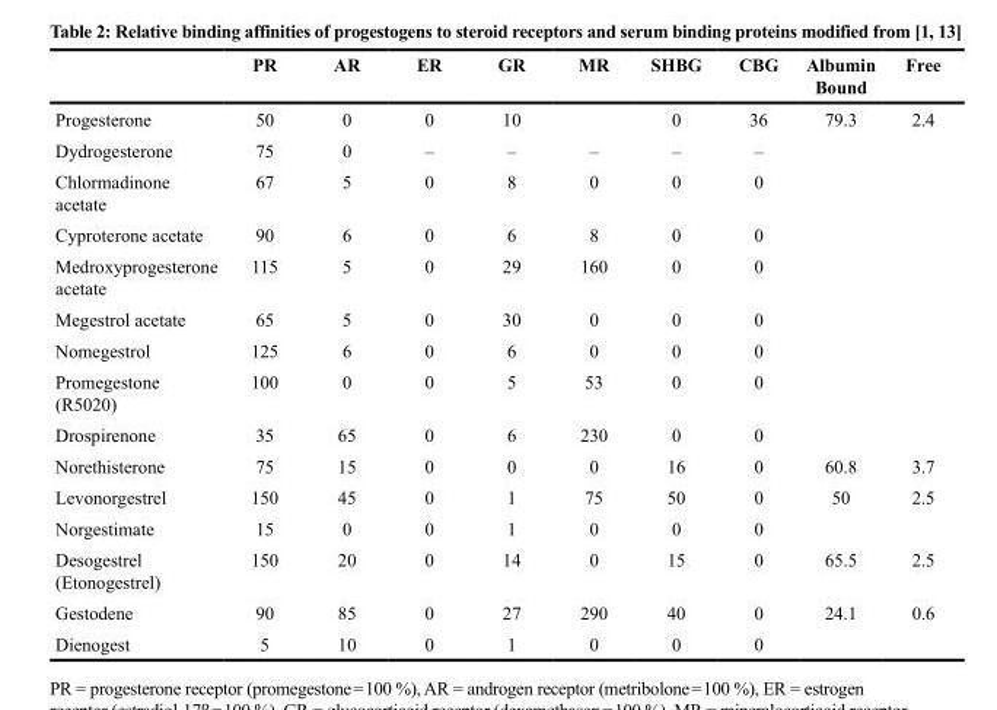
<table><thead><tr><td></td><td>PR</td><td>AR</td><td>ER</td><td>GR</td><td>MR</td><td>SHBG</td><td>CBG</td><td>Albumin Bound</td><td>Free</td></tr></thead><tbody><tr><td>Progesterone</td><td>50</td><td>0</td><td>0</td><td>10</td><td></td><td>0</td><td>36</td><td>79.3</td><td>2.4</td></tr><tr><td>Dydrogesterone</td><td>75</td><td>0</td><td>–</td><td>–</td><td>–</td><td>–</td><td>–</td><td></td><td></td></tr><tr><td>Chlormadinone acetate</td><td>67</td><td>5</td><td>0</td><td>8</td><td>0</td><td>0</td><td>0</td><td></td><td></td></tr><tr><td>Cyproterone acetate</td><td>90</td><td>6</td><td>0</td><td>6</td><td>8</td><td>0</td><td>0</td><td></td><td></td></tr><tr><td>Medroxyprogesterone acetate</td><td>115</td><td>5</td><td>0</td><td>29</td><td>160</td><td>0</td><td>0</td><td></td><td></td></tr><tr><td>Megestrol acetate</td><td>65</td><td>5</td><td>0</td><td>30</td><td>0</td><td>0</td><td>0</td><td></td><td></td></tr><tr><td>Nomegestrol</td><td>125</td><td>6</td><td>0</td><td>6</td><td>0</td><td>0</td><td>0</td><td></td><td></td></tr><tr><td>Promegestone (R5020)</td><td>100</td><td>0</td><td>0</td><td>5</td><td>53</td><td>0</td><td>0</td><td></td><td></td></tr><tr><td>Drospirenone</td><td>35</td><td>65</td><td>0</td><td>6</td><td>230</td><td>0</td><td>0</td><td></td><td></td></tr><tr><td>Norethisterone</td><td>75</td><td>15</td><td>0</td><td>0</td><td>0</td><td>16</td><td>0</td><td>60.8</td><td>3.7</td></tr><tr><td>Levonorgestrel</td><td>150</td><td>45</td><td>0</td><td>1</td><td>75</td><td>50</td><td>0</td><td>50</td><td>2.5</td></tr><tr><td>Norgestimate</td><td>15</td><td>0</td><td>0</td><td>1</td><td>0</td><td>0</td><td>0</td><td></td><td></td></tr><tr><td>Desogestrel (Etonogestrel)</td><td>150</td><td>20</td><td>0</td><td>14</td><td>0</td><td>15</td><td>0</td><td>65.5</td><td>2.5</td></tr><tr><td>Gestodene</td><td>90</td><td>85</td><td>0</td><td>27</td><td>290</td><td>40</td><td>0</td><td>24.1</td><td>0.6</td></tr><tr><td>Dienogest</td><td>5</td><td>10</td><td>0</td><td>1</td><td>0</td><td>0</td><td>0</td><td></td><td></td></tr></tbody></table>